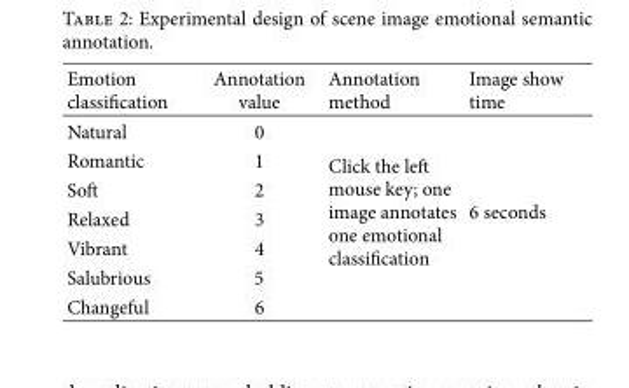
<table><thead><tr><td>Emotion classification</td><td>Annotation value</td><td>Annotation method</td><td>Image show time</td></tr></thead><tbody><tr><td>Natural</td><td>0</td><td rowspan="7">Click the left mouse key; one image annotates one emotional classification</td><td rowspan="7">6 seconds</td></tr><tr><td>Romantic</td><td>1</td></tr><tr><td>Soft</td><td>2</td></tr><tr><td>Relaxed</td><td>3</td></tr><tr><td>Vibrant</td><td>4</td></tr><tr><td>Salubrious</td><td>5</td></tr><tr><td>Changeful</td><td>6</td></tr></tbody></table>